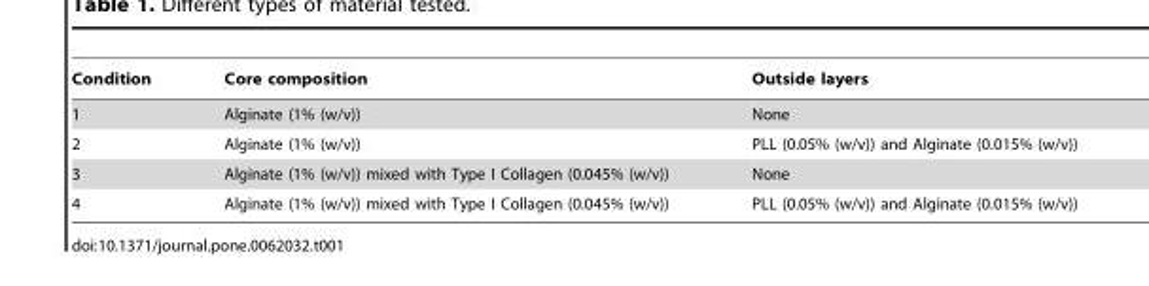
<table><thead><tr><td>Condition</td><td>Core composition</td><td>Outside layers</td></tr></thead><tbody><tr><td>1</td><td>Alginate (1% (w/v))</td><td>None</td></tr><tr><td>2</td><td>Alginate (1% (w/v))</td><td>PLL (0.05% (w/v)) and Alginate (0.015% (w/v))</td></tr><tr><td>3</td><td>Alginate (1% (w/v)) mixed with Type I Collagen (0.045% (w/v))</td><td>None</td></tr><tr><td>4</td><td>Alginate (1% (w/v)) mixed with Type I Collagen (0.045% (w/v))</td><td>PLL (0.05% (w/v)) and Alginate (0.015% (w/v))</td></tr></tbody></table>